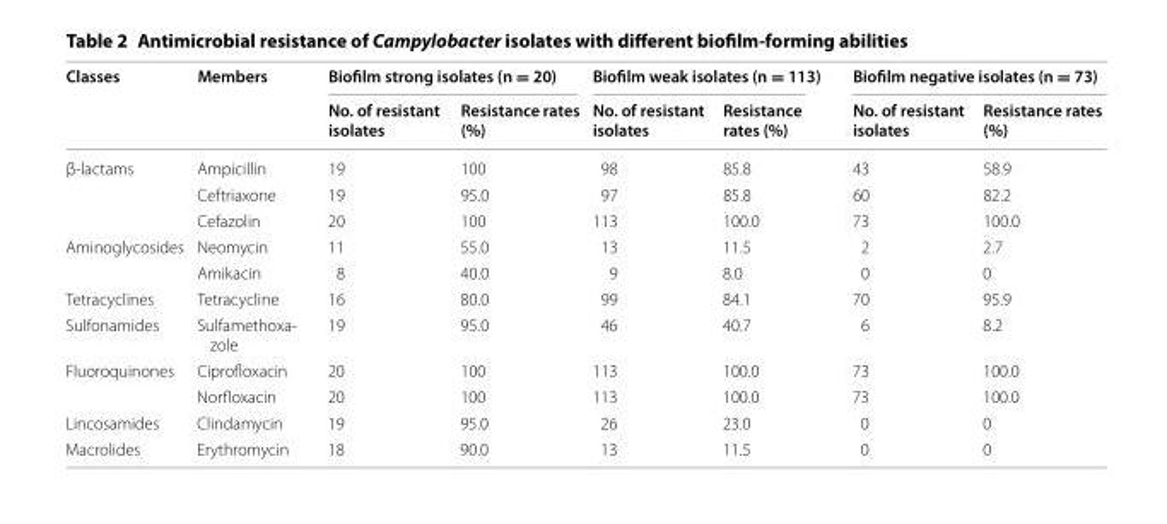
<table><thead><tr><td rowspan="2">Classes</td><td rowspan="2">Members</td><td colspan="2">Biofilm strong isolates (n = 20)</td><td colspan="2">Biofilm weak isolates (n = 113)</td><td colspan="2">Biofilm negative isolates (n = 73)</td></tr><tr><td>No. of resistant isolates</td><td>Resistance rates (%)</td><td>No. of resistant isolates</td><td>Resistance rates (%)</td><td>No. of resistant isolates</td><td>Resistance rates (%)</td></tr></thead><tbody><tr><td rowspan="3">β-lactams</td><td>Ampicillin</td><td>19</td><td>100</td><td>98</td><td>85.8</td><td>43</td><td>58.9</td></tr><tr><td>Ceftriaxone</td><td>19</td><td>95.0</td><td>97</td><td>85.8</td><td>60</td><td>82.2</td></tr><tr><td>Cefazolin</td><td>20</td><td>100</td><td>113</td><td>100.0</td><td>73</td><td>100.0</td></tr><tr><td rowspan="2">Aminoglycosides</td><td>Neomycin</td><td>11</td><td>55.0</td><td>13</td><td>11.5</td><td>2</td><td>2.7</td></tr><tr><td>Amikacin</td><td>8</td><td>40.0</td><td>9</td><td>8.0</td><td>0</td><td>0</td></tr><tr><td>Tetracyclines</td><td>Tetracycline</td><td>16</td><td>80.0</td><td>99</td><td>84.1</td><td>70</td><td>95.9</td></tr><tr><td>Sulfonamides</td><td>Sulfamethoxa- zole</td><td>19</td><td>95.0</td><td>46</td><td>40.7</td><td>6</td><td>8.2</td></tr><tr><td rowspan="2">Fluoroquinones</td><td>Ciprofloxacin</td><td>20</td><td>100</td><td>113</td><td>100.0</td><td>73</td><td>100.0</td></tr><tr><td>Norfloxacin</td><td>20</td><td>100</td><td>113</td><td>100.0</td><td>73</td><td>100.0</td></tr><tr><td>Lincosamides</td><td>Clindamycin</td><td>19</td><td>95.0</td><td>26</td><td>23.0</td><td>0</td><td>0</td></tr><tr><td>Macrolides</td><td>Erythromycin</td><td>18</td><td>90.0</td><td>13</td><td>11.5</td><td>0</td><td>0</td></tr></tbody></table>